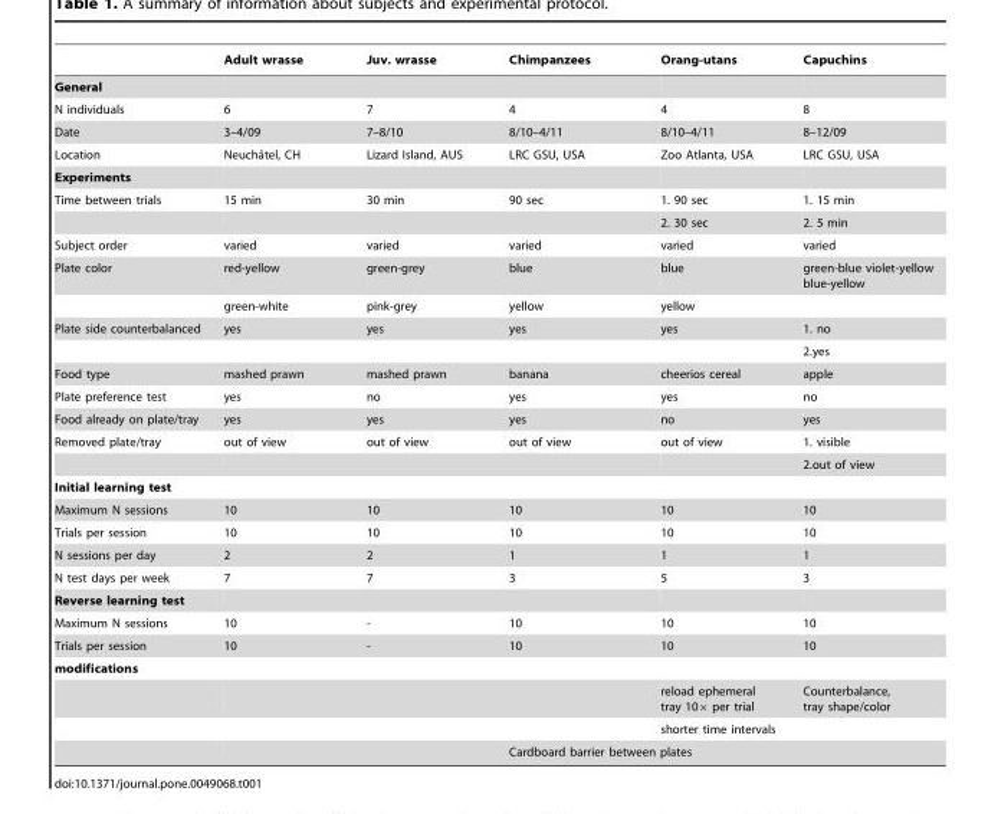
<table><thead><tr><td></td><td>Adult wrasse</td><td>Juv. wrasse</td><td>Chimpanzees</td><td>Orang-utans</td><td>Capuchins</td></tr></thead><tbody><tr><td colspan="6">General</td></tr><tr><td>N individuals</td><td>6</td><td>7</td><td>4</td><td>4</td><td>8</td></tr><tr><td>Date</td><td>3–4/09</td><td>7–8/10</td><td>8/10–4/11</td><td>8/10–4/11</td><td>8–12/09</td></tr><tr><td>Location</td><td>Neuchaˆtel, CH</td><td>Lizard Island, AUS</td><td>LRC GSU, USA</td><td>Zoo Atlanta, USA</td><td>LRC GSU, USA</td></tr><tr><td colspan="6">Experiments</td></tr><tr><td rowspan="2">Time between trials</td><td>15 min</td><td>30 min</td><td>90 sec</td><td>1. 90 sec</td><td>1. 15 min</td></tr><tr><td></td><td></td><td></td><td>2. 30 sec</td><td>2. 5 min</td></tr><tr><td>Subject order</td><td>varied</td><td>varied</td><td>varied</td><td>varied</td><td>varied</td></tr><tr><td rowspan="2">Plate color</td><td>red-yellow</td><td>green-grey</td><td>blue</td><td>blue</td><td>green-blue violet-yellow blue-yellow</td></tr><tr><td>green-white</td><td>pink-grey</td><td>yellow</td><td>yellow</td><td></td></tr><tr><td rowspan="2">Plate side counterbalanced</td><td>yes</td><td>yes</td><td>yes</td><td>yes</td><td>1. no</td></tr><tr><td></td><td></td><td></td><td></td><td>2.yes</td></tr><tr><td>Food type</td><td>mashed prawn</td><td>mashed prawn</td><td>banana</td><td>cheerios cereal</td><td>apple</td></tr><tr><td>Plate preference test</td><td>yes</td><td>no</td><td>yes</td><td>yes</td><td>no</td></tr><tr><td>Food already on plate/tray</td><td>yes</td><td>yes</td><td>yes</td><td>no</td><td>yes</td></tr><tr><td rowspan="2">Removed plate/tray</td><td>out of view</td><td>out of view</td><td>out of view</td><td>out of view</td><td>1. visible</td></tr><tr><td></td><td></td><td></td><td></td><td>2.out of view</td></tr><tr><td colspan="6">Initial learning test</td></tr><tr><td>Maximum N sessions</td><td>10</td><td>10</td><td>10</td><td>10</td><td>10</td></tr><tr><td>Trials per session</td><td>10</td><td>10</td><td>10</td><td>10</td><td>10</td></tr><tr><td>N sessions per day</td><td>2</td><td>2</td><td>1</td><td>1</td><td>1</td></tr><tr><td>N test days per week</td><td>7</td><td>7</td><td>3</td><td>5</td><td>3</td></tr><tr><td colspan="6">Reverse learning test</td></tr><tr><td>Maximum N sessions</td><td>10</td><td>-</td><td>10</td><td>10</td><td>10</td></tr><tr><td>Trials per session</td><td>10</td><td>-</td><td>10</td><td>10</td><td>10</td></tr><tr><td colspan="6">modifications</td></tr><tr><td></td><td></td><td></td><td></td><td>reload ephemeral tray 10× per trial</td><td>Counterbalance, tray shape/color</td></tr><tr><td></td><td></td><td></td><td></td><td colspan="2">shorter time intervals</td></tr><tr><td></td><td></td><td></td><td colspan="3">Cardboard barrier between plates</td></tr></tbody></table>